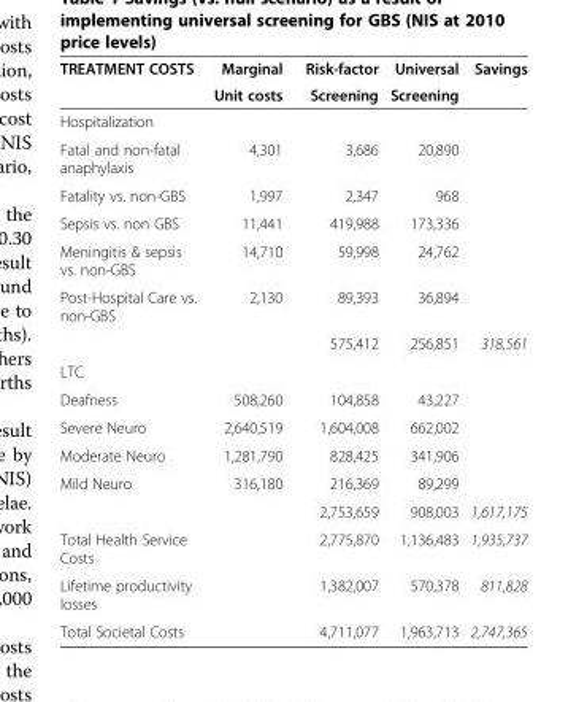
<table><thead><tr><td rowspan="2">TREATMENT COSTS</td><td rowspan="2">Marginal Unit costs</td><td rowspan="2">Risk-factor Screening</td><td rowspan="2">Universal Screening</td><td rowspan="2">Savings</td></tr><tr></tr></thead><tbody><tr><td colspan="5">Hospitalization</td></tr><tr><td>Fatal and non-fatal anaphylaxis</td><td>4,301</td><td>3,686</td><td>20,890</td><td></td></tr><tr><td>Fatality vs. non-GBS</td><td>1,997</td><td>2,347</td><td>968</td><td></td></tr><tr><td>Sepsis vs. non GBS</td><td>11,441</td><td>419,988</td><td>173,336</td><td></td></tr><tr><td>Meningitis &amp; sepsis vs. non-GBS</td><td>14,710</td><td>59,998</td><td>24,762</td><td></td></tr><tr><td rowspan="2">Post-Hospital Care vs. non-GBS</td><td>2,130</td><td>89,393</td><td>36,894</td><td></td></tr><tr><td></td><td>575,412</td><td>256,851</td><td>318,561</td></tr><tr><td colspan="5">LTC</td></tr><tr><td>Deafness</td><td>508,260</td><td>104,858</td><td>43,227</td><td></td></tr><tr><td>Severe Neuro</td><td>2,640,519</td><td>1,604,008</td><td>662,002</td><td></td></tr><tr><td>Moderate Neuro</td><td>1,281,790</td><td>828,425</td><td>341,906</td><td></td></tr><tr><td rowspan="2">Mild Neuro</td><td>316,180</td><td>216,369</td><td>89,299</td><td></td></tr><tr><td></td><td>2,753,659</td><td>908,003</td><td>1,617,175</td></tr><tr><td>Total Health Service Costs</td><td></td><td>2,775,870</td><td>1,136,483</td><td>1,935,737</td></tr><tr><td>Lifetime productivity losses</td><td></td><td>1,382,007</td><td>570,378</td><td>811,828</td></tr><tr><td>Total Societal Costs</td><td></td><td>4,711,077</td><td>1,963,713</td><td>2,747,365</td></tr></tbody></table>